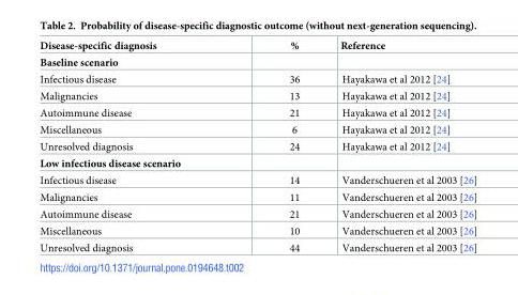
<table><thead><tr><td>Disease-specific diagnosis</td><td>%</td><td>Reference</td></tr></thead><tbody><tr><td colspan="3">Baseline scenario</td></tr><tr><td>Infectious disease</td><td>36</td><td>Hayakawa et al 2012 [24]</td></tr><tr><td>Malignancies</td><td>13</td><td>Hayakawa et al 2012 [24]</td></tr><tr><td>Autoimmune disease</td><td>21</td><td>Hayakawa et al 2012 [24]</td></tr><tr><td>Miscellaneous</td><td>6</td><td>Hayakawa et al 2012 [24]</td></tr><tr><td>Unresolved diagnosis</td><td>24</td><td>Hayakawa et al 2012 [24]</td></tr><tr><td colspan="3">Low infectious disease scenario</td></tr><tr><td>Infectious disease</td><td>14</td><td>Vanderschueren et al 2003 [26]</td></tr><tr><td>Malignancies</td><td>11</td><td>Vanderschueren et al 2003 [26]</td></tr><tr><td>Autoimmune disease</td><td>21</td><td>Vanderschueren et al 2003 [26]</td></tr><tr><td>Miscellaneous</td><td>10</td><td>Vanderschueren et al 2003 [26]</td></tr><tr><td>Unresolved diagnosis</td><td>44</td><td>Vanderschueren et al 2003 [26]</td></tr></tbody></table>